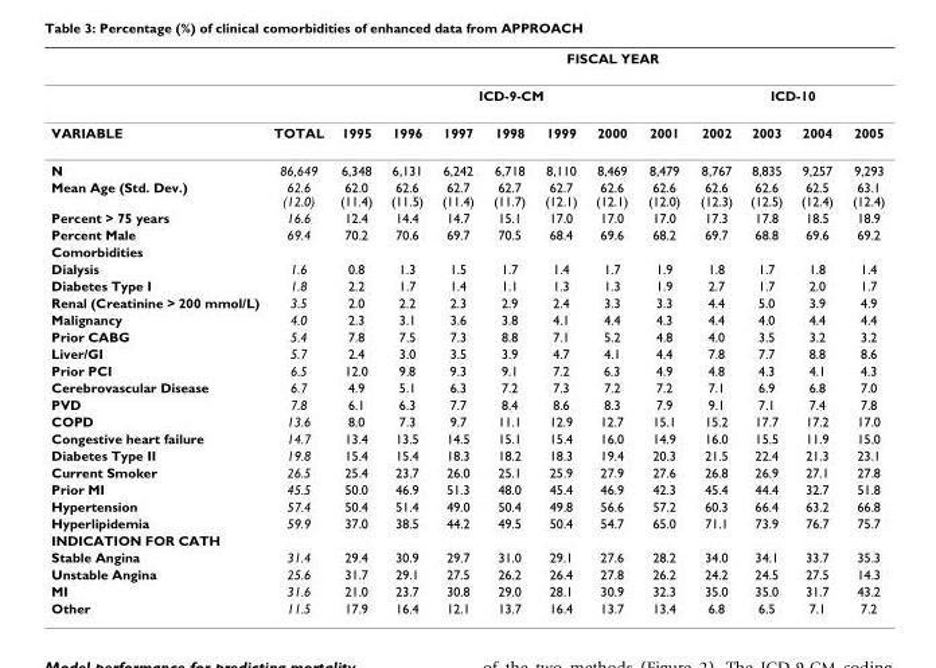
<table><thead><tr><td rowspan="3">VARIABLE</td><td rowspan="3">TOTAL</td><td colspan="11">FISCAL YEAR</td></tr><tr><td colspan="7">ICD-9-CM</td><td colspan="4">ICD-10</td></tr><tr><td>1995</td><td>1996</td><td>1997</td><td>1998</td><td>1999</td><td>2000</td><td>2001</td><td>2002</td><td>2003</td><td>2004</td><td>2005</td></tr></thead><tbody><tr><td>N</td><td>86,649</td><td>6,348</td><td>6,131</td><td>6,242</td><td>6,718</td><td>8,110</td><td>8,469</td><td>8,479</td><td>8,767</td><td>8,835</td><td>9,257</td><td>9,293</td></tr><tr><td>Mean Age (Std. Dev.)</td><td>62.6 (12.0)</td><td>62.0 (11.4)</td><td>62.6 (11.5)</td><td>62.7 (11.4)</td><td>62.7 (11.7)</td><td>62.7 (12.1)</td><td>62.6 (12.1)</td><td>62.6 (12.0)</td><td>62.6 (12.3)</td><td>62.6 (12.5)</td><td>62.5 (12.4)</td><td>63.1 (12.4)</td></tr><tr><td>Percent &gt; 75 years</td><td>16.6</td><td>12.4</td><td>14.4</td><td>14.7</td><td>15.1</td><td>17.0</td><td>17.0</td><td>17.0</td><td>17.3</td><td>17.8</td><td>18.5</td><td>18.9</td></tr><tr><td>Percent Male</td><td>69.4</td><td>70.2</td><td>70.6</td><td>69.7</td><td>70.5</td><td>68.4</td><td>69.6</td><td>68.2</td><td>69.7</td><td>68.8</td><td>69.6</td><td>69.2</td></tr><tr><td colspan="13">Comorbidities</td></tr><tr><td>Dialysis</td><td>1.6</td><td>0.8</td><td>1.3</td><td>1.5</td><td>1.7</td><td>1.4</td><td>1.7</td><td>1.9</td><td>1.8</td><td>1.7</td><td>1.8</td><td>1.4</td></tr><tr><td>Diabetes Type I</td><td>1.8</td><td>2.2</td><td>1.7</td><td>1.4</td><td>1.1</td><td>1.3</td><td>1.3</td><td>1.9</td><td>2.7</td><td>1.7</td><td>2.0</td><td>1.7</td></tr><tr><td>Renal (Creatinine &gt; 200 mmol/L)</td><td>3.5</td><td>2.0</td><td>2.2</td><td>2.3</td><td>2.9</td><td>2.4</td><td>3.3</td><td>3.3</td><td>4.4</td><td>5.0</td><td>3.9</td><td>4.9</td></tr><tr><td>Malignancy</td><td>4.0</td><td>2.3</td><td>3.1</td><td>3.6</td><td>3.8</td><td>4.1</td><td>4.4</td><td>4.3</td><td>4.4</td><td>4.0</td><td>4.4</td><td>4.4</td></tr><tr><td>Prior CABG</td><td>5.4</td><td>7.8</td><td>7.5</td><td>7.3</td><td>8.8</td><td>7.1</td><td>5.2</td><td>4.8</td><td>4.0</td><td>3.5</td><td>3.2</td><td>3.2</td></tr><tr><td>Liver/GI</td><td>5.7</td><td>2.4</td><td>3.0</td><td>3.5</td><td>3.9</td><td>4.7</td><td>4.1</td><td>4.4</td><td>7.8</td><td>7.7</td><td>8.8</td><td>8.6</td></tr><tr><td>Prior PCI</td><td>6.5</td><td>12.0</td><td>9.8</td><td>9.3</td><td>9.1</td><td>7.2</td><td>6.3</td><td>4.9</td><td>4.8</td><td>4.3</td><td>4.1</td><td>4.3</td></tr><tr><td>Cerebrovascular Disease</td><td>6.7</td><td>4.9</td><td>5.1</td><td>6.3</td><td>7.2</td><td>7.3</td><td>7.2</td><td>7.2</td><td>7.1</td><td>6.9</td><td>6.8</td><td>7.0</td></tr><tr><td>PVD</td><td>7.8</td><td>6.1</td><td>6.3</td><td>7.7</td><td>8.4</td><td>8.6</td><td>8.3</td><td>7.9</td><td>9.1</td><td>7.1</td><td>7.4</td><td>7.8</td></tr><tr><td>COPD</td><td>13.6</td><td>8.0</td><td>7.3</td><td>9.7</td><td>11.1</td><td>12.9</td><td>12.7</td><td>15.1</td><td>15.2</td><td>17.7</td><td>17.2</td><td>17.0</td></tr><tr><td>Congestive heart failure</td><td>14.7</td><td>13.4</td><td>13.5</td><td>14.5</td><td>15.1</td><td>15.4</td><td>16.0</td><td>14.9</td><td>16.0</td><td>15.5</td><td>11.9</td><td>15.0</td></tr><tr><td>Diabetes Type II</td><td>19.8</td><td>15.4</td><td>15.4</td><td>18.3</td><td>18.2</td><td>18.3</td><td>19.4</td><td>20.3</td><td>21.5</td><td>22.4</td><td>21.3</td><td>23.1</td></tr><tr><td>Current Smoker</td><td>26.5</td><td>25.4</td><td>23.7</td><td>26.0</td><td>25.1</td><td>25.9</td><td>27.9</td><td>27.6</td><td>26.8</td><td>26.9</td><td>27.1</td><td>27.8</td></tr><tr><td>Prior MI</td><td>45.5</td><td>50.0</td><td>46.9</td><td>51.3</td><td>48.0</td><td>45.4</td><td>46.9</td><td>42.3</td><td>45.4</td><td>44.4</td><td>32.7</td><td>51.8</td></tr><tr><td>Hypertension</td><td>57.4</td><td>50.4</td><td>51.4</td><td>49.0</td><td>50.4</td><td>49.8</td><td>56.6</td><td>57.2</td><td>60.3</td><td>66.4</td><td>63.2</td><td>66.8</td></tr><tr><td>Hyperlipidemia</td><td>59.9</td><td>37.0</td><td>38.5</td><td>44.2</td><td>49.5</td><td>50.4</td><td>54.7</td><td>65.0</td><td>71.1</td><td>73.9</td><td>76.7</td><td>75.7</td></tr><tr><td colspan="13">INDICATION FOR CATH</td></tr><tr><td>Stable Angina</td><td>31.4</td><td>29.4</td><td>30.9</td><td>29.7</td><td>31.0</td><td>29.1</td><td>27.6</td><td>28.2</td><td>34.0</td><td>34.1</td><td>33.7</td><td>35.3</td></tr><tr><td>Unstable Angina</td><td>25.6</td><td>31.7</td><td>29.1</td><td>27.5</td><td>26.2</td><td>26.4</td><td>27.8</td><td>26.2</td><td>24.2</td><td>24.5</td><td>27.5</td><td>14.3</td></tr><tr><td>MI</td><td>31.6</td><td>21.0</td><td>23.7</td><td>30.8</td><td>29.0</td><td>28.1</td><td>30.9</td><td>32.3</td><td>35.0</td><td>35.0</td><td>31.7</td><td>43.2</td></tr><tr><td>Other</td><td>11.5</td><td>17.9</td><td>16.4</td><td>12.1</td><td>13.7</td><td>16.4</td><td>13.7</td><td>13.4</td><td>6.8</td><td>6.5</td><td>7.1</td><td>7.2</td></tr></tbody></table>